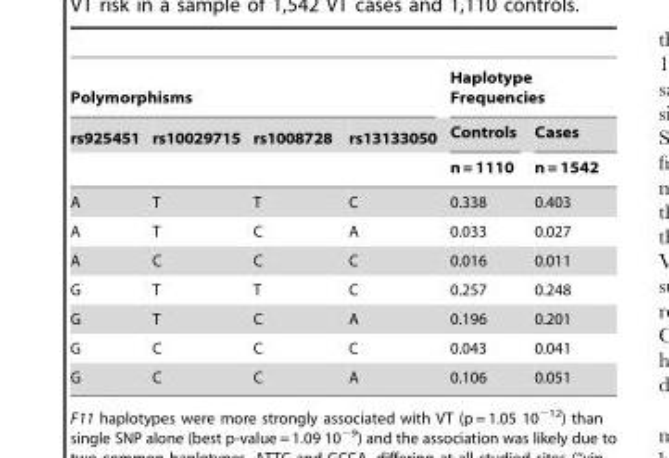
<table><thead><tr><td colspan="4">Polymorphisms</td><td colspan="2">Haplotype Frequencies</td></tr><tr><td rowspan="2">rs925451</td><td rowspan="2">rs10029715</td><td rowspan="2">rs1008728</td><td rowspan="2">rs13133050</td><td rowspan="2">Controls n = 1110</td><td rowspan="2">Cases n = 1542</td></tr><tr></tr></thead><tbody><tr><td>A</td><td>T</td><td>T</td><td>C</td><td>0.338</td><td>0.403</td></tr><tr><td>A</td><td>T</td><td>C</td><td>A</td><td>0.033</td><td>0.027</td></tr><tr><td>A</td><td>C</td><td>C</td><td>C</td><td>0.016</td><td>0.011</td></tr><tr><td>G</td><td>T</td><td>T</td><td>C</td><td>0.257</td><td>0.248</td></tr><tr><td>G</td><td>T</td><td>C</td><td>A</td><td>0.196</td><td>0.201</td></tr><tr><td>G</td><td>C</td><td>C</td><td>C</td><td>0.043</td><td>0.041</td></tr><tr><td>G</td><td>C</td><td>C</td><td>A</td><td>0.106</td><td>0.051</td></tr></tbody></table>